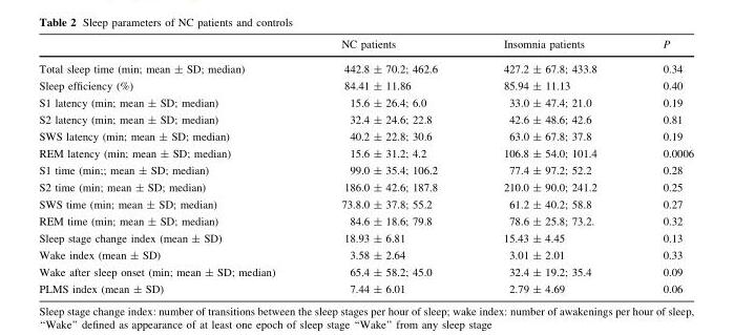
<table><thead><tr><td></td><td>NC patients</td><td>Insomnia patients</td><td>P</td></tr></thead><tbody><tr><td>Total sleep time (min; mean ± SD; median)</td><td>442.8 ± 70.2; 462.6</td><td>427.2 ± 67.8; 433.8</td><td>0.34</td></tr><tr><td>Sleep efficiency (%)</td><td>84.41 ± 11.86</td><td>85.94 ± 11.13</td><td>0.40</td></tr><tr><td>S1 latency (min; mean ± SD; median)</td><td>15.6 ± 26.4; 6.0</td><td>33.0 ± 47.4; 21.0</td><td>0.19</td></tr><tr><td>S2 latency (min; mean ± SD; median)</td><td>32.4 ± 24.6; 22.8</td><td>42.6 ± 48.6; 42.6</td><td>0.81</td></tr><tr><td>SWS latency (min; mean ± SD; median)</td><td>40.2 ± 22.8; 30.6</td><td>63.0 ± 67.8; 37.8</td><td>0.19</td></tr><tr><td>REM latency (min; mean ± SD; median)</td><td>15.6 ± 31.2; 4.2</td><td>106.8 ± 54.0; 101.4</td><td>0.0006</td></tr><tr><td>S1 time (min;; mean ± SD; median)</td><td>99.0 ± 35.4; 106.2</td><td>77.4 ± 97.2; 52.2</td><td>0.28</td></tr><tr><td>S2 time (min; mean ± SD; median)</td><td>186.0 ± 42.6; 187.8</td><td>210.0 ± 90.0; 241.2</td><td>0.25</td></tr><tr><td>SWS time (min; mean ± SD; median)</td><td>73.8.0 ± 37.8; 55.2</td><td>61.2 ± 40.2; 58.8</td><td>0.27</td></tr><tr><td>REM time (min; mean ± SD; median)</td><td>84.6 ± 18.6; 79.8</td><td>78.6 ± 25.8; 73.2.</td><td>0.32</td></tr><tr><td>Sleep stage change index (mean ± SD)</td><td>18.93 ± 6.81</td><td>15.43 ± 4.45</td><td>0.13</td></tr><tr><td>Wake index (mean ± SD)</td><td>3.58 ± 2.64</td><td>3.01 ± 2.01</td><td>0.33</td></tr><tr><td>Wake after sleep onset (min; mean ± SD; median)</td><td>65.4 ± 58.2; 45.0</td><td>32.4 ± 19.2; 35.4</td><td>0.09</td></tr><tr><td>PLMS index (mean ± SD)</td><td>7.44 ± 6.01</td><td>2.79 ± 4.69</td><td>0.06</td></tr></tbody></table>